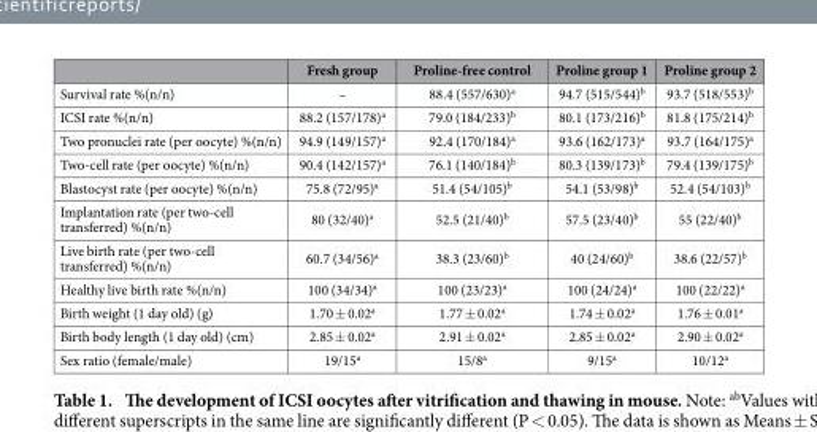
<table><thead><tr><td></td><td>Fresh group</td><td>Proline-free control</td><td>Proline group 1</td><td>Proline group 2</td></tr></thead><tbody><tr><td>Survival rate %(n/n)</td><td>–</td><td>88.4 (557/630)<sup>a</sup></td><td>94.7 (515/544)<sup>b</sup></td><td>93.7 (518/553)<sup>b</sup></td></tr><tr><td>ICSI rate %(n/n)</td><td>88.2 (157/178)<sup>a</sup></td><td>79.0 (184/233)<sup>b</sup></td><td>80.1 (173/216)<sup>b</sup></td><td>81.8 (175/214)<sup>b</sup></td></tr><tr><td>Two pronuclei rate (per oocyte) %(n/n)</td><td>94.9 (149/157)<sup>a</sup></td><td>92.4 (170/184)<sup>a</sup></td><td>93.6 (162/173)<sup>a</sup></td><td>93.7 (164/175)<sup>a</sup></td></tr><tr><td>Two-cell rate (per oocyte) %(n/n)</td><td>90.4 (142/157)<sup>a</sup></td><td>76.1 (140/184)<sup>b</sup></td><td>80.3 (139/173)<sup>b</sup></td><td>79.4 (139/175)<sup>b</sup></td></tr><tr><td>Blastocyst rate (per oocyte) %(n/n)</td><td>75.8 (72/95)<sup>a</sup></td><td>51.4 (54/105)<sup>b</sup></td><td>54.1 (53/98)<sup>b</sup></td><td>52.4 (54/103)<sup>b</sup></td></tr><tr><td>Implantation rate (per two-cell transferred) %(n/n)</td><td>80 (32/40)<sup>a</sup></td><td>52.5 (21/40)<sup>b</sup></td><td>57.5 (23/40)<sup>b</sup></td><td>55 (22/40)<sup>b</sup></td></tr><tr><td>Live birth rate (per two-cell transferred) %(n/n)</td><td>60.7 (34/56)<sup>a</sup></td><td>38.3 (23/60)<sup>b</sup></td><td>40 (24/60)<sup>b</sup></td><td>38.6 (22/57)<sup>b</sup></td></tr><tr><td>Healthy live birth rate %(n/n)</td><td>100 (34/34)<sup>a</sup></td><td>100 (23/23)<sup>a</sup></td><td>100 (24/24)<sup>a</sup></td><td>100 (22/22)<sup>a</sup></td></tr><tr><td>Birth weight (1 day old) (g)</td><td>1.70 ± 0.02<sup>a</sup></td><td>1.77 ± 0.02<sup>a</sup></td><td>1.74 ± 0.02<sup>a</sup></td><td>1.76 ± 0.01<sup>a</sup></td></tr><tr><td>Birth body length (1 day old) (cm)</td><td>2.85 ± 0.02<sup>a</sup></td><td>2.91 ± 0.02<sup>a</sup></td><td>2.85 ± 0.02<sup>a</sup></td><td>2.90 ± 0.02<sup>a</sup></td></tr><tr><td>Sex ratio (female/male)</td><td>19/15<sup>a</sup></td><td>15/8<sup>a</sup></td><td>9/15<sup>a</sup></td><td>10/12<sup>a</sup></td></tr></tbody></table>